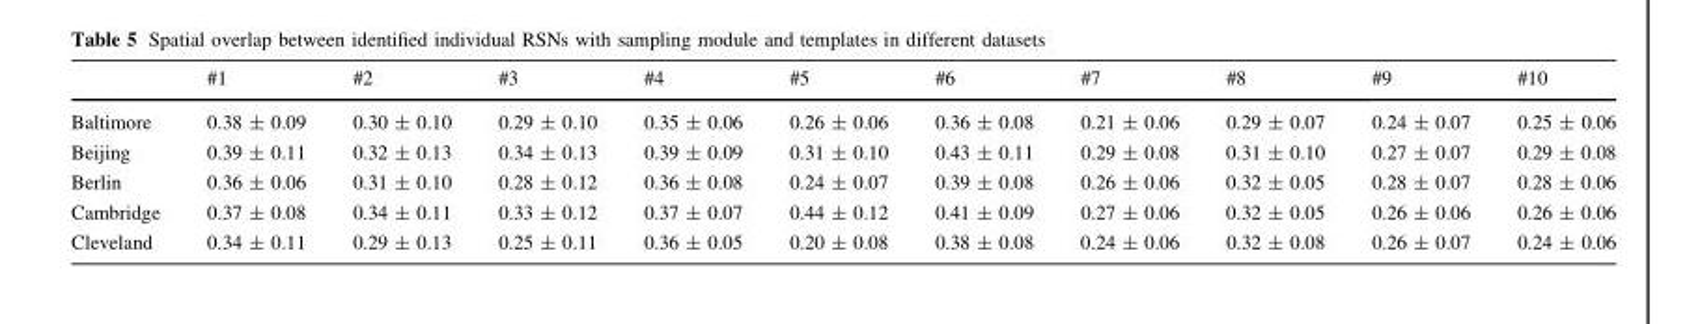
<table><thead><tr><td></td><td>#1</td><td>#2</td><td>#3</td><td>#4</td><td>#5</td><td>#6</td><td>#7</td><td>#8</td><td>#9</td><td>#10</td></tr></thead><tbody><tr><td>Baltimore</td><td>0.38 ± 0.09</td><td>0.30 ± 0.10</td><td>0.29 ± 0.10</td><td>0.35 ± 0.06</td><td>0.26 ± 0.06</td><td>0.36 ± 0.08</td><td>0.21 ± 0.06</td><td>0.29 ± 0.07</td><td>0.24 ± 0.07</td><td>0.25 ± 0.06</td></tr><tr><td>Beijing</td><td>0.39 ± 0.11</td><td>0.32 ± 0.13</td><td>0.34 ± 0.13</td><td>0.39 ± 0.09</td><td>0.31 ± 0.10</td><td>0.43 ± 0.11</td><td>0.29 ± 0.08</td><td>0.31 ± 0.10</td><td>0.27 ± 0.07</td><td>0.29 ± 0.08</td></tr><tr><td>Berlin</td><td>0.36 ± 0.06</td><td>0.31 ± 0.10</td><td>0.28 ± 0.12</td><td>0.36 ± 0.08</td><td>0.24 ± 0.07</td><td>0.39 ± 0.08</td><td>0.26 ± 0.06</td><td>0.32 ± 0.05</td><td>0.28 ± 0.07</td><td>0.28 ± 0.06</td></tr><tr><td>Cambridge</td><td>0.37 ± 0.08</td><td>0.34 ± 0.11</td><td>0.33 ± 0.12</td><td>0.37 ± 0.07</td><td>0.44 ± 0.12</td><td>0.41 ± 0.09</td><td>0.27 ± 0.06</td><td>0.32 ± 0.05</td><td>0.26 ± 0.06</td><td>0.26 ± 0.06</td></tr><tr><td>Cleveland</td><td>0.34 ± 0.11</td><td>0.29 ± 0.13</td><td>0.25 ± 0.11</td><td>0.36 ± 0.05</td><td>0.20 ± 0.08</td><td>0.38 ± 0.08</td><td>0.24 ± 0.06</td><td>0.32 ± 0.08</td><td>0.26 ± 0.07</td><td>0.24 ± 0.06</td></tr></tbody></table>